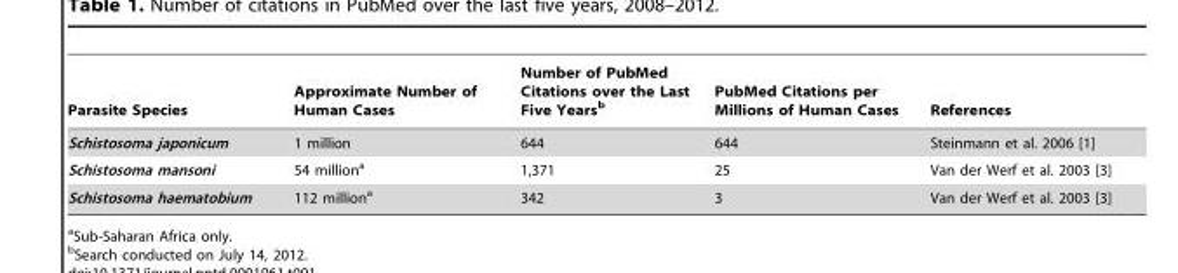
<table><thead><tr><td>Parasite Species</td><td>Approximate Number of Human Cases</td><td>Number of PubMed Citations over the Last Five Years<sup>b</sup></td><td>PubMed Citations per Millions of Human Cases</td><td>References</td></tr></thead><tbody><tr><td>Schistosoma japonicum</td><td>1 million</td><td>644</td><td>644</td><td>Steinmann et al. 2006 [1]</td></tr><tr><td>Schistosoma mansoni</td><td>54 million<sup>a</sup></td><td>1,371</td><td>25</td><td>Van der Werf et al. 2003 [3]</td></tr><tr><td>Schistosoma haematobium</td><td>112 million<sup>a</sup></td><td>342</td><td>3</td><td>Van der Werf et al. 2003 [3]</td></tr></tbody></table>